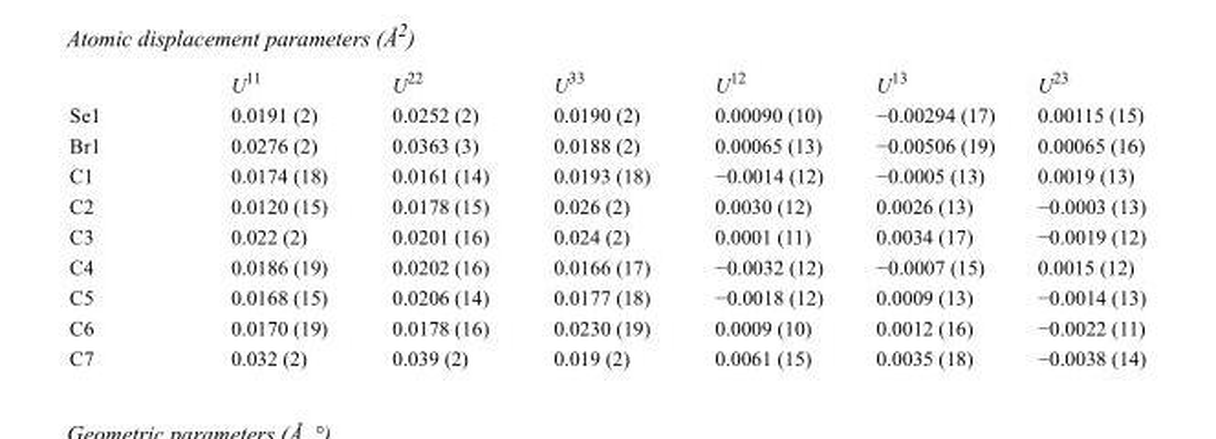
<table><thead><tr><td></td><td>U<sup>11</sup></td><td>U<sup>22</sup></td><td>U<sup>33</sup></td><td>U<sup>12</sup></td><td>U<sup>13</sup></td><td>U<sup>23</sup></td></tr></thead><tbody><tr><td>Se1</td><td>0.0191 (2)</td><td>0.0252 (2)</td><td>0.0190 (2)</td><td>0.00090 (10)</td><td>−0.00294 (17)</td><td>0.00115 (15)</td></tr><tr><td>Br1</td><td>0.0276 (2)</td><td>0.0363 (3)</td><td>0.0188 (2)</td><td>0.00065 (13)</td><td>−0.00506 (19)</td><td>0.00065 (16)</td></tr><tr><td>C1</td><td>0.0174 (18)</td><td>0.0161 (14)</td><td>0.0193 (18)</td><td>−0.0014 (12)</td><td>−0.0005 (13)</td><td>0.0019 (13)</td></tr><tr><td>C2</td><td>0.0120 (15)</td><td>0.0178 (15)</td><td>0.026 (2)</td><td>0.0030 (12)</td><td>0.0026 (13)</td><td>−0.0003 (13)</td></tr><tr><td>C3</td><td>0.022 (2)</td><td>0.0201 (16)</td><td>0.024 (2)</td><td>0.0001 (11)</td><td>0.0034 (17)</td><td>−0.0019 (12)</td></tr><tr><td>C4</td><td>0.0186 (19)</td><td>0.0202 (16)</td><td>0.0166 (17)</td><td>−0.0032 (12)</td><td>−0.0007 (15)</td><td>0.0015 (12)</td></tr><tr><td>C5</td><td>0.0168 (15)</td><td>0.0206 (14)</td><td>0.0177 (18)</td><td>−0.0018 (12)</td><td>0.0009 (13)</td><td>−0.0014 (13)</td></tr><tr><td>C6</td><td>0.0170 (19)</td><td>0.0178 (16)</td><td>0.0230 (19)</td><td>0.0009 (10)</td><td>0.0012 (16)</td><td>−0.0022 (11)</td></tr><tr><td>C7</td><td>0.032 (2)</td><td>0.039 (2)</td><td>0.019 (2)</td><td>0.0061 (15)</td><td>0.0035 (18)</td><td>−0.0038 (14)</td></tr></tbody></table>